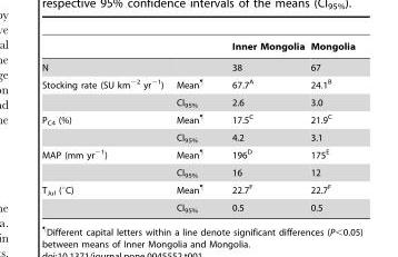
<table><thead><tr><td></td><td></td><td>Inner Mongolia</td><td>Mongolia</td></tr></thead><tbody><tr><td>N</td><td></td><td>38</td><td>67</td></tr><tr><td rowspan="2">Stocking rate (SU km<sup>−2</sup> yr<sup>−1</sup>)</td><td>Mean¶</td><td>67.7<sup>A</sup></td><td>24.1<sup>B</sup></td></tr><tr><td>CI<sub>95%</sub></td><td>2.6</td><td>3.0</td></tr><tr><td rowspan="2">P<sub>C4</sub> (%)</td><td>Mean¶</td><td>17.5<sup>C</sup></td><td>21.9<sup>C</sup></td></tr><tr><td>CI<sub>95%</sub></td><td>4.2</td><td>3.1</td></tr><tr><td rowspan="2">MAP (mm yr<sup>−1</sup>)</td><td>Mean¶</td><td>196<sup>D</sup></td><td>175<sup>E</sup></td></tr><tr><td>CI<sub>95%</sub></td><td>16</td><td>12</td></tr><tr><td rowspan="2">T<sub>Jul</sub> (°C)</td><td>Mean¶</td><td>22.7<sup>F</sup></td><td>22.7<sup>F</sup></td></tr><tr><td>CI<sub>95%</sub></td><td>0.5</td><td>0.5</td></tr></tbody></table>